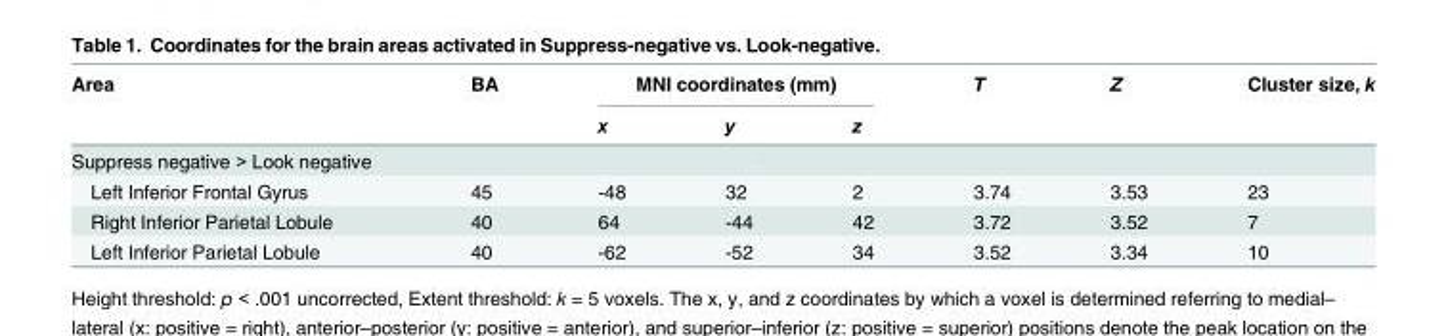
<table><thead><tr><td rowspan="2">Area</td><td rowspan="2">BA</td><td colspan="3">MNI coordinates (mm)</td><td rowspan="2">T</td><td rowspan="2">Z</td><td rowspan="2">Cluster size, k</td></tr><tr><td>x</td><td>y</td><td>z</td></tr></thead><tbody><tr><td colspan="8">Suppress negative &gt; Look negative</td></tr><tr><td>Left Inferior Frontal Gyrus</td><td>45</td><td>-48</td><td>32</td><td>2</td><td>3.74</td><td>3.53</td><td>23</td></tr><tr><td>Right Inferior Parietal Lobule</td><td>40</td><td>64</td><td>-44</td><td>42</td><td>3.72</td><td>3.52</td><td>7</td></tr><tr><td>Left Inferior Parietal Lobule</td><td>40</td><td>-62</td><td>-52</td><td>34</td><td>3.52</td><td>3.34</td><td>10</td></tr></tbody></table>